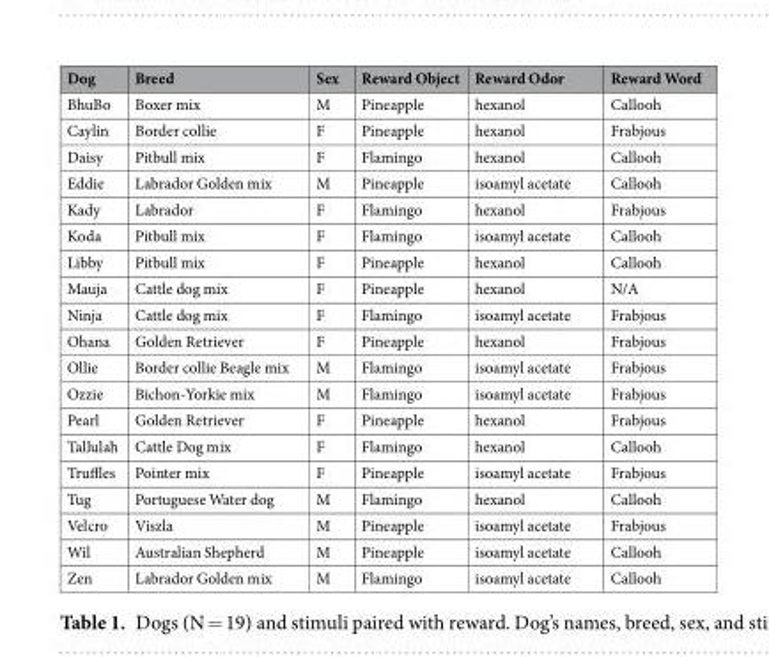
<table><thead><tr><td>Dog</td><td>Breed</td><td>Sex</td><td>Reward Object</td><td>Reward Odor</td><td>Reward Word</td></tr></thead><tbody><tr><td>BhuBo</td><td>Boxer mix</td><td>M</td><td>Pineapple</td><td>hexanol</td><td>Callooh</td></tr><tr><td>Caylin</td><td>Border collie</td><td>F</td><td>Pineapple</td><td>hexanol</td><td>Frabjous</td></tr><tr><td>Daisy</td><td>Pitbull mix</td><td>F</td><td>Flamingo</td><td>hexanol</td><td>Callooh</td></tr><tr><td>Eddie</td><td>Labrador Golden mix</td><td>M</td><td>Pineapple</td><td>isoamyl acetate</td><td>Callooh</td></tr><tr><td>Kady</td><td>Labrador</td><td>F</td><td>Flamingo</td><td>hexanol</td><td>Frabjous</td></tr><tr><td>Koda</td><td>Pitbull mix</td><td>F</td><td>Flamingo</td><td>isoamyl acetate</td><td>Callooh</td></tr><tr><td>Libby</td><td>Pitbull mix</td><td>F</td><td>Pineapple</td><td>hexanol</td><td>Callooh</td></tr><tr><td>Mauja</td><td>Cattle dog mix</td><td>F</td><td>Pineapple</td><td>hexanol</td><td>N/A</td></tr><tr><td>Ninja</td><td>Cattle dog mix</td><td>F</td><td>Flamingo</td><td>isoamyl acetate</td><td>Frabjous</td></tr><tr><td>Ohana</td><td>Golden Retriever</td><td>F</td><td>Pineapple</td><td>hexanol</td><td>Frabjous</td></tr><tr><td>Ollie</td><td>Border collie Beagle mix</td><td>M</td><td>Flamingo</td><td>isoamyl acetate</td><td>Frabjous</td></tr><tr><td>Ozzie</td><td>Bichon-Yorkie mix</td><td>M</td><td>Flamingo</td><td>isoamyl acetate</td><td>Frabjous</td></tr><tr><td>Pearl</td><td>Golden Retriever</td><td>F</td><td>Pineapple</td><td>hexanol</td><td>Frabjous</td></tr><tr><td>Tallulah</td><td>Cattle Dog mix</td><td>F</td><td>Flamingo</td><td>hexanol</td><td>Callooh</td></tr><tr><td>Truffles</td><td>Pointer mix</td><td>F</td><td>Pineapple</td><td>isoamyl acetate</td><td>Frabjous</td></tr><tr><td>Tug</td><td>Portuguese Water dog</td><td>M</td><td>Flamingo</td><td>hexanol</td><td>Callooh</td></tr><tr><td>Velcro</td><td>Viszla</td><td>M</td><td>Pineapple</td><td>isoamyl acetate</td><td>Frabjous</td></tr><tr><td>Wil</td><td>Australian Shepherd</td><td>M</td><td>Pineapple</td><td>isoamyl acetate</td><td>Callooh</td></tr><tr><td>Zen</td><td>Labrador Golden mix</td><td>M</td><td>Flamingo</td><td>isoamyl acetate</td><td>Callooh</td></tr></tbody></table>